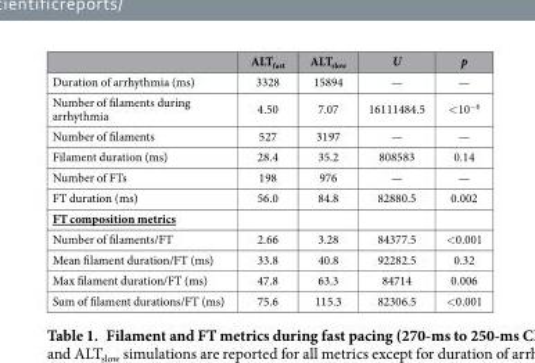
<table><thead><tr><td></td><td>ALT<sub>fast</sub></td><td>ALT<sub>slow</sub></td><td>U</td><td>p</td></tr></thead><tbody><tr><td>Duration of arrhythmia (ms)</td><td>3328</td><td>15894</td><td>—</td><td>—</td></tr><tr><td>Number of filaments during arrhythmia</td><td>4.50</td><td>7.07</td><td>16111484.5</td><td>&lt; 10<sup>−6</sup></td></tr><tr><td>Number of filaments</td><td>527</td><td>3197</td><td>—</td><td>—</td></tr><tr><td>Filament duration (ms)</td><td>28.4</td><td>35.2</td><td>808583</td><td>0.14</td></tr><tr><td>Number of FTs</td><td>198</td><td>976</td><td>—</td><td>—</td></tr><tr><td>FT duration (ms)</td><td>56.0</td><td>84.8</td><td>82880.5</td><td>0.002</td></tr><tr><td colspan="5">FT composition metrics</td></tr><tr><td>Number of filaments/FT</td><td>2.66</td><td>3.28</td><td>84377.5</td><td>&lt; 0.001</td></tr><tr><td>Mean filament duration/FT (ms)</td><td>33.8</td><td>40.8</td><td>92282.5</td><td>0.32</td></tr><tr><td>Max filament duration/FT (ms)</td><td>47.8</td><td>63.3</td><td>84714</td><td>0.006</td></tr><tr><td>Sum of filament durations/FT (ms)</td><td>75.6</td><td>115.3</td><td>82306.5</td><td>&lt; 0.001</td></tr></tbody></table>